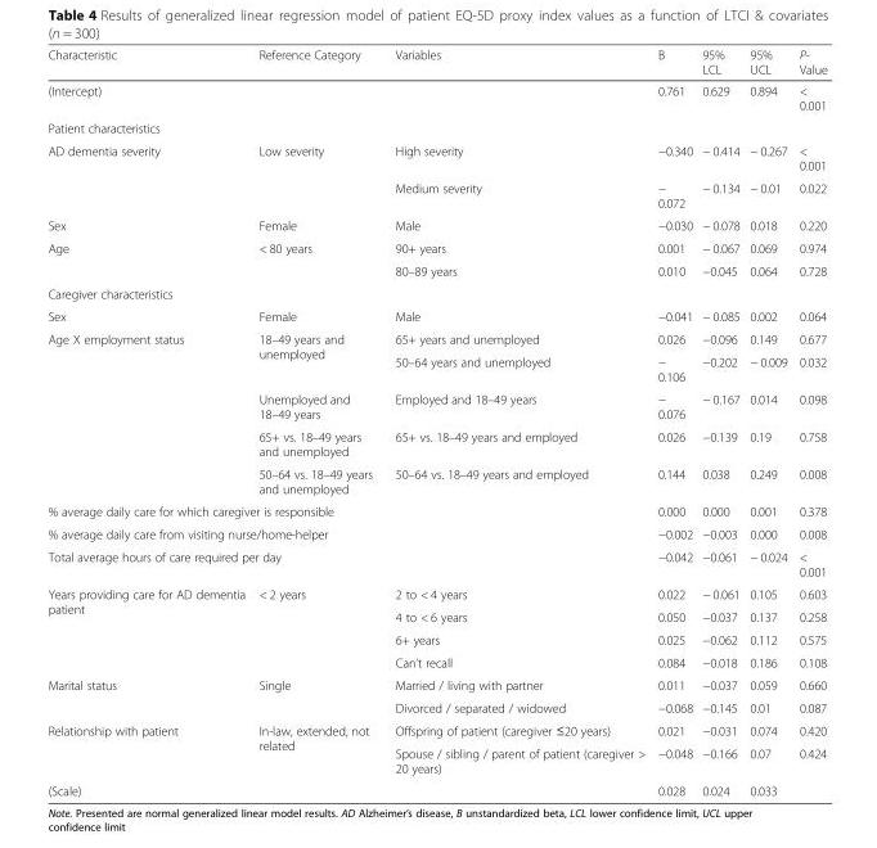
<table><thead><tr><td>Characteristic</td><td>Reference Category</td><td>Variables</td><td>B</td><td>95% LCL</td><td>95% UCL</td><td>P- Value</td></tr></thead><tbody><tr><td colspan="3">(Intercept)</td><td>0.761</td><td>0.629</td><td>0.894</td><td>&lt; 0.001</td></tr><tr><td colspan="7">Patient characteristics</td></tr><tr><td rowspan="2">AD dementia severity</td><td rowspan="2">Low severity</td><td>High severity</td><td>−0.340</td><td>− 0.414</td><td>− 0.267</td><td>&lt; 0.001</td></tr><tr><td>Medium severity</td><td>− 0.072</td><td>− 0.134</td><td>− 0.01</td><td>0.022</td></tr><tr><td>Sex</td><td>Female</td><td>Male</td><td>−0.030</td><td>− 0.078</td><td>0.018</td><td>0.220</td></tr><tr><td rowspan="2">Age</td><td rowspan="2">&lt; 80 years</td><td>90+ years</td><td>0.001</td><td>− 0.067</td><td>0.069</td><td>0.974</td></tr><tr><td>80–89 years</td><td>0.010</td><td>−0.045</td><td>0.064</td><td>0.728</td></tr><tr><td colspan="7">Caregiver characteristics</td></tr><tr><td>Sex</td><td>Female</td><td>Male</td><td>−0.041</td><td>− 0.085</td><td>0.002</td><td>0.064</td></tr><tr><td rowspan="5">Age X employment status</td><td rowspan="2">18–49 years and unemployed</td><td>65+ years and unemployed</td><td>0.026</td><td>−0.096</td><td>0.149</td><td>0.677</td></tr><tr><td>50–64 years and unemployed</td><td>− 0.106</td><td>−0.202</td><td>− 0.009</td><td>0.032</td></tr><tr><td>Unemployed and 18–49 years</td><td>Employed and 18–49 years</td><td>− 0.076</td><td>− 0.167</td><td>0.014</td><td>0.098</td></tr><tr><td>65+ vs. 18–49 years and unemployed</td><td>65+ vs. 18–49 years and employed</td><td>0.026</td><td>−0.139</td><td>0.19</td><td>0.758</td></tr><tr><td>50–64 vs. 18–49 years and unemployed</td><td>50–64 vs. 18–49 years and employed</td><td>0.144</td><td>0.038</td><td>0.249</td><td>0.008</td></tr><tr><td colspan="3">% average daily care for which caregiver is responsible</td><td>0.000</td><td>0.000</td><td>0.001</td><td>0.378</td></tr><tr><td colspan="3">% average daily care from visiting nurse/home-helper</td><td>−0.002</td><td>−0.003</td><td>0.000</td><td>0.008</td></tr><tr><td colspan="3">Total average hours of care required per day</td><td>−0.042</td><td>−0.061</td><td>− 0.024</td><td>&lt; 0.001</td></tr><tr><td rowspan="4">Years providing care for AD dementia patient</td><td rowspan="4">&lt; 2 years</td><td>2 to &lt; 4 years</td><td>0.022</td><td>− 0.061</td><td>0.105</td><td>0.603</td></tr><tr><td>4 to &lt; 6 years</td><td>0.050</td><td>−0.037</td><td>0.137</td><td>0.258</td></tr><tr><td>6+ years</td><td>0.025</td><td>−0.062</td><td>0.112</td><td>0.575</td></tr><tr><td>Can’t recall</td><td>0.084</td><td>−0.018</td><td>0.186</td><td>0.108</td></tr><tr><td rowspan="2">Marital status</td><td rowspan="2">Single</td><td>Married / living with partner</td><td>0.011</td><td>−0.037</td><td>0.059</td><td>0.660</td></tr><tr><td>Divorced / separated / widowed</td><td>−0.068</td><td>−0.145</td><td>0.01</td><td>0.087</td></tr><tr><td rowspan="2">Relationship with patient</td><td rowspan="2">In-law, extended, not related</td><td>Offspring of patient (caregiver ≤20 years)</td><td>0.021</td><td>−0.031</td><td>0.074</td><td>0.420</td></tr><tr><td>Spouse / sibling / parent of patient (caregiver &gt; 20 years)</td><td>−0.048</td><td>−0.166</td><td>0.07</td><td>0.424</td></tr><tr><td colspan="3">(Scale)</td><td>0.028</td><td>0.024</td><td>0.033</td><td></td></tr></tbody></table>